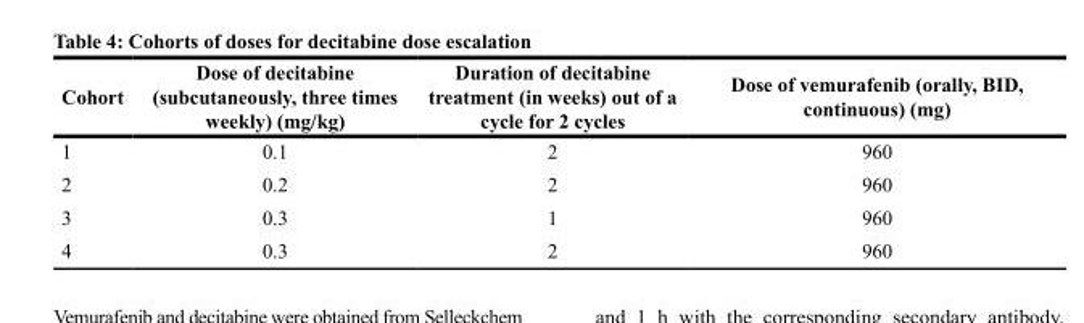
<table><thead><tr><td>Cohort</td><td>Dose of decitabine (subcutaneously, three times weekly) (mg/kg)</td><td>Duration of decitabine treatment (in weeks) out of a cycle for 2 cycles</td><td>Dose of vemurafenib (orally, BID, continuous) (mg)</td></tr></thead><tbody><tr><td>1</td><td>0.1</td><td>2</td><td>960</td></tr><tr><td>2</td><td>0.2</td><td>2</td><td>960</td></tr><tr><td>3</td><td>0.3</td><td>1</td><td>960</td></tr><tr><td>4</td><td>0.3</td><td>2</td><td>960</td></tr></tbody></table>